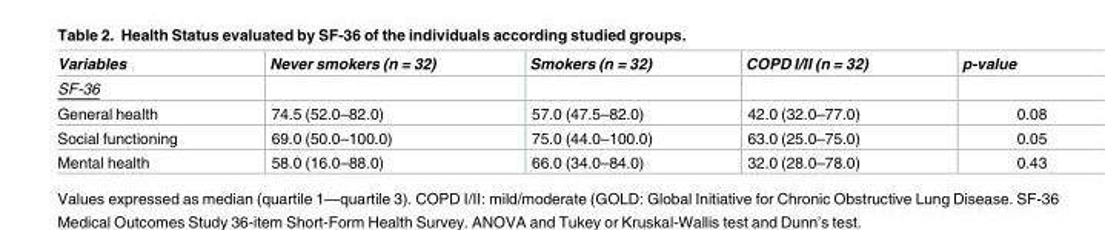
<table><thead><tr><td>Variables</td><td>Never smokers (n = 32)</td><td>Smokers (n = 32)</td><td>COPD I/II (n = 32)</td><td>p-value</td></tr></thead><tbody><tr><td colspan="5">SF-36</td></tr><tr><td>General health</td><td>74.5 (52.0–82.0)</td><td>57.0 (47.5–82.0)</td><td>42.0 (32.0–77.0)</td><td>0.08</td></tr><tr><td>Social functioning</td><td>69.0 (50.0–100.0)</td><td>75.0 (44.0–100.0)</td><td>63.0 (25.0–75.0)</td><td>0.05</td></tr><tr><td>Mental health</td><td>58.0 (16.0–88.0)</td><td>66.0 (34.0–84.0)</td><td>32.0 (28.0–78.0)</td><td>0.43</td></tr></tbody></table>